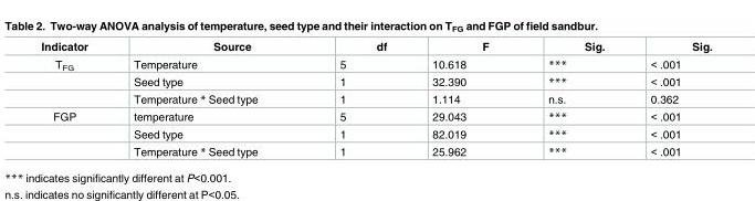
<table><thead><tr><td>Indicator</td><td>Source</td><td>df</td><td>F</td><td>Sig.</td><td>Sig.</td></tr></thead><tbody><tr><td rowspan="3">T<sub>FG</sub></td><td>Temperature</td><td>5</td><td>10.618</td><td>***</td><td>&lt; .001</td></tr><tr><td>Seed type</td><td>1</td><td>32.390</td><td>***</td><td>&lt; .001</td></tr><tr><td>Temperature * Seed type</td><td>1</td><td>1.114</td><td>n.s.</td><td>0.362</td></tr><tr><td rowspan="3">FGP</td><td>temperature</td><td>5</td><td>29.043</td><td>***</td><td>&lt; .001</td></tr><tr><td>Seed type</td><td>1</td><td>82.019</td><td>***</td><td>&lt; .001</td></tr><tr><td>Temperature * Seed type</td><td>1</td><td>25.962</td><td>***</td><td>&lt; .001</td></tr></tbody></table>